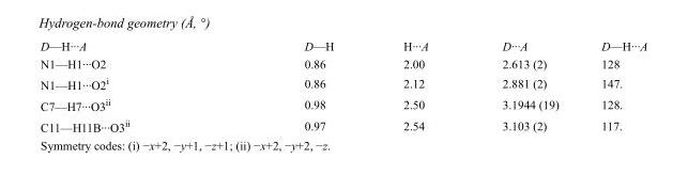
<table><tbody><tr><td>D—H···A</td><td>D—H</td><td>H···A</td><td>D···A</td><td>D—H···A</td></tr><tr><td>N1—H1···O2</td><td>0.86</td><td>2.00</td><td>2.613 (2)</td><td>128</td></tr><tr><td>N1—H1···O2<sup>i</sup></td><td>0.86</td><td>2.12</td><td>2.881 (2)</td><td>147.</td></tr><tr><td>C7—H7···O3<sup>ii</sup></td><td>0.98</td><td>2.50</td><td>3.1944 (19)</td><td>128.</td></tr><tr><td>C11—H11B···O3<sup>ii</sup></td><td>0.97</td><td>2.54</td><td>3.103 (2)</td><td>117.</td></tr></tbody></table>